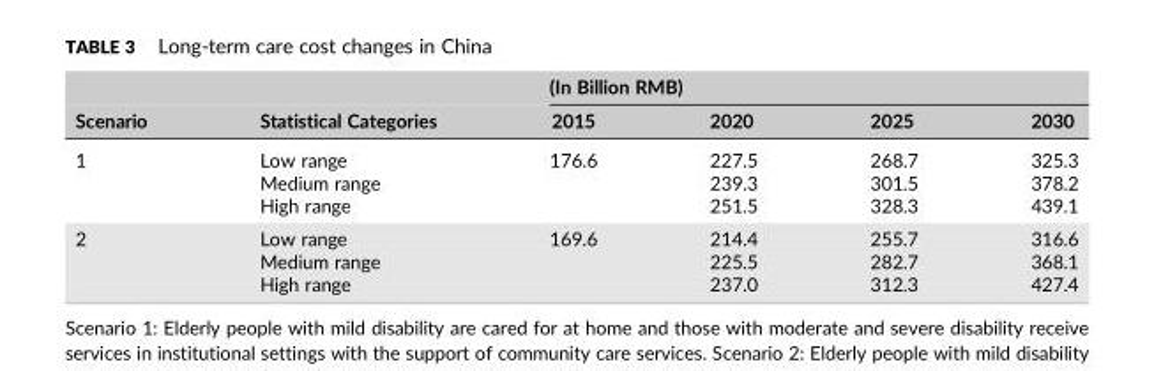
<table><thead><tr><td rowspan="2">Scenario</td><td rowspan="2">Statistical Categories</td><td colspan="4">(In Billion RMB)</td></tr><tr><td>2015</td><td>2020</td><td>2025</td><td>2030</td></tr></thead><tbody><tr><td rowspan="3">1</td><td>Low range</td><td rowspan="3">176.6</td><td>227.5</td><td>268.7</td><td>325.3</td></tr><tr><td>Medium range</td><td>239.3</td><td>301.5</td><td>378.2</td></tr><tr><td>High range</td><td>251.5</td><td>328.3</td><td>439.1</td></tr><tr><td rowspan="3">2</td><td>Low range</td><td rowspan="3">169.6</td><td>214.4</td><td>255.7</td><td>316.6</td></tr><tr><td>Medium range</td><td>225.5</td><td>282.7</td><td>368.1</td></tr><tr><td>High range</td><td>237.0</td><td>312.3</td><td>427.4</td></tr></tbody></table>